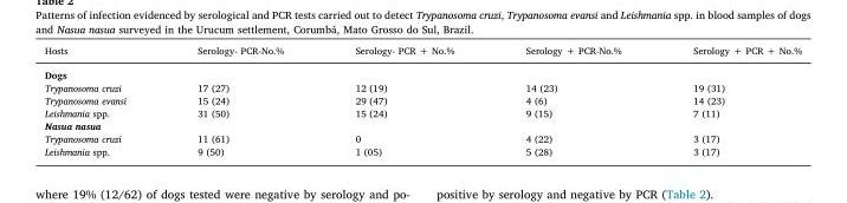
<table><thead><tr><td>Hosts</td><td>Serology- PCR-No.%</td><td>Serology- PCR + No.%</td><td>Serology + PCR-No.%</td><td>Serology + PCR + No.%</td></tr></thead><tbody><tr><td colspan="5">Dogs</td></tr><tr><td>Trypanosoma cruzi</td><td>17 (27)</td><td>12 (19)</td><td>14 (23)</td><td>19 (31)</td></tr><tr><td>Trypanosoma evansi</td><td>15 (24)</td><td>29 (47)</td><td>4 (6)</td><td>14 (23)</td></tr><tr><td>Leishmania spp.</td><td>31 (50)</td><td>15 (24)</td><td>9 (15)</td><td>7 (11)</td></tr><tr><td colspan="5">Nasua nasua</td></tr><tr><td>Trypanosoma cruzi</td><td>11 (61)</td><td>0</td><td>4 (22)</td><td>3 (17)</td></tr><tr><td>Leishmania spp.</td><td>9 (50)</td><td>1 (05)</td><td>5 (28)</td><td>3 (17)</td></tr></tbody></table>